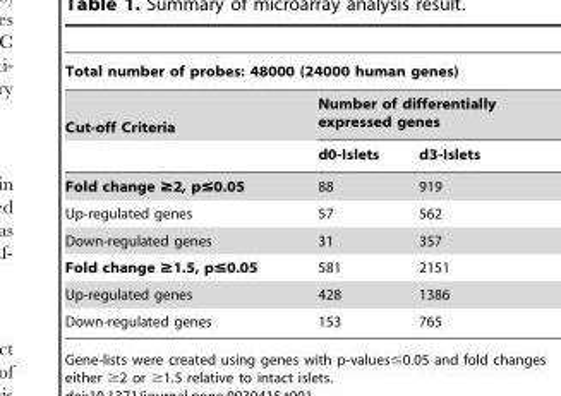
<table><thead><tr><td colspan="3">Total number of probes: 48000 (24000 human genes)</td></tr><tr><td rowspan="2">Cut-off Criteria</td><td colspan="2">Number of differentially expressed genes</td></tr><tr><td>d0-Islets</td><td>d3-Islets</td></tr></thead><tbody><tr><td>Fold change ≥2, p≤0.05</td><td>88</td><td>919</td></tr><tr><td>Up-regulated genes</td><td>57</td><td>562</td></tr><tr><td>Down-regulated genes</td><td>31</td><td>357</td></tr><tr><td>Fold change ≥1.5, p≤0.05</td><td>581</td><td>2151</td></tr><tr><td>Up-regulated genes</td><td>428</td><td>1386</td></tr><tr><td>Down-regulated genes</td><td>153</td><td>765</td></tr></tbody></table>